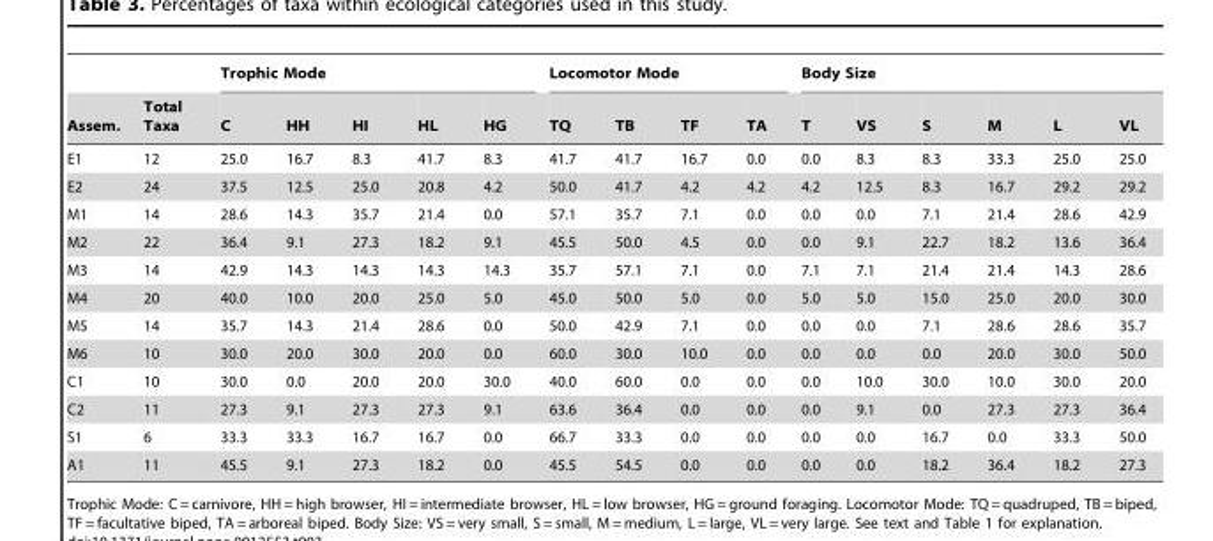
<table><thead><tr><td rowspan="2">Assem.</td><td rowspan="2">Total Taxa</td><td colspan="5">Trophic Mode</td><td colspan="4">Locomotor Mode</td><td colspan="6">Body Size</td></tr><tr><td>C</td><td>HH</td><td>HI</td><td>HL</td><td>HG</td><td>TQ</td><td>TB</td><td>TF</td><td>TA</td><td>T</td><td>VS</td><td>S</td><td>M</td><td>L</td><td>VL</td></tr></thead><tbody><tr><td>E1</td><td>12</td><td>25.0</td><td>16.7</td><td>8.3</td><td>41.7</td><td>8.3</td><td>41.7</td><td>41.7</td><td>16.7</td><td>0.0</td><td>0.0</td><td>8.3</td><td>8.3</td><td>33.3</td><td>25.0</td><td>25.0</td></tr><tr><td>E2</td><td>24</td><td>37.5</td><td>12.5</td><td>25.0</td><td>20.8</td><td>4.2</td><td>50.0</td><td>41.7</td><td>4.2</td><td>4.2</td><td>4.2</td><td>12.5</td><td>8.3</td><td>16.7</td><td>29.2</td><td>29.2</td></tr><tr><td>M1</td><td>14</td><td>28.6</td><td>14.3</td><td>35.7</td><td>21.4</td><td>0.0</td><td>57.1</td><td>35.7</td><td>7.1</td><td>0.0</td><td>0.0</td><td>0.0</td><td>7.1</td><td>21.4</td><td>28.6</td><td>42.9</td></tr><tr><td>M2</td><td>22</td><td>36.4</td><td>9.1</td><td>27.3</td><td>18.2</td><td>9.1</td><td>45.5</td><td>50.0</td><td>4.5</td><td>0.0</td><td>0.0</td><td>9.1</td><td>22.7</td><td>18.2</td><td>13.6</td><td>36.4</td></tr><tr><td>M3</td><td>14</td><td>42.9</td><td>14.3</td><td>14.3</td><td>14.3</td><td>14.3</td><td>35.7</td><td>57.1</td><td>7.1</td><td>0.0</td><td>7.1</td><td>7.1</td><td>21.4</td><td>21.4</td><td>14.3</td><td>28.6</td></tr><tr><td>M4</td><td>20</td><td>40.0</td><td>10.0</td><td>20.0</td><td>25.0</td><td>5.0</td><td>45.0</td><td>50.0</td><td>5.0</td><td>0.0</td><td>5.0</td><td>5.0</td><td>15.0</td><td>25.0</td><td>20.0</td><td>30.0</td></tr><tr><td>M5</td><td>14</td><td>35.7</td><td>14.3</td><td>21.4</td><td>28.6</td><td>0.0</td><td>50.0</td><td>42.9</td><td>7.1</td><td>0.0</td><td>0.0</td><td>0.0</td><td>7.1</td><td>28.6</td><td>28.6</td><td>35.7</td></tr><tr><td>M6</td><td>10</td><td>30.0</td><td>20.0</td><td>30.0</td><td>20.0</td><td>0.0</td><td>60.0</td><td>30.0</td><td>10.0</td><td>0.0</td><td>0.0</td><td>0.0</td><td>0.0</td><td>20.0</td><td>30.0</td><td>50.0</td></tr><tr><td>C1</td><td>10</td><td>30.0</td><td>0.0</td><td>20.0</td><td>20.0</td><td>30.0</td><td>40.0</td><td>60.0</td><td>0.0</td><td>0.0</td><td>0.0</td><td>10.0</td><td>30.0</td><td>10.0</td><td>30.0</td><td>20.0</td></tr><tr><td>C2</td><td>11</td><td>27.3</td><td>9.1</td><td>27.3</td><td>27.3</td><td>9.1</td><td>63.6</td><td>36.4</td><td>0.0</td><td>0.0</td><td>0.0</td><td>9.1</td><td>0.0</td><td>27.3</td><td>27.3</td><td>36.4</td></tr><tr><td>S1</td><td>6</td><td>33.3</td><td>33.3</td><td>16.7</td><td>16.7</td><td>0.0</td><td>66.7</td><td>33.3</td><td>0.0</td><td>0.0</td><td>0.0</td><td>0.0</td><td>16.7</td><td>0.0</td><td>33.3</td><td>50.0</td></tr><tr><td>A1</td><td>11</td><td>45.5</td><td>9.1</td><td>27.3</td><td>18.2</td><td>0.0</td><td>45.5</td><td>54.5</td><td>0.0</td><td>0.0</td><td>0.0</td><td>0.0</td><td>18.2</td><td>36.4</td><td>18.2</td><td>27.3</td></tr></tbody></table>